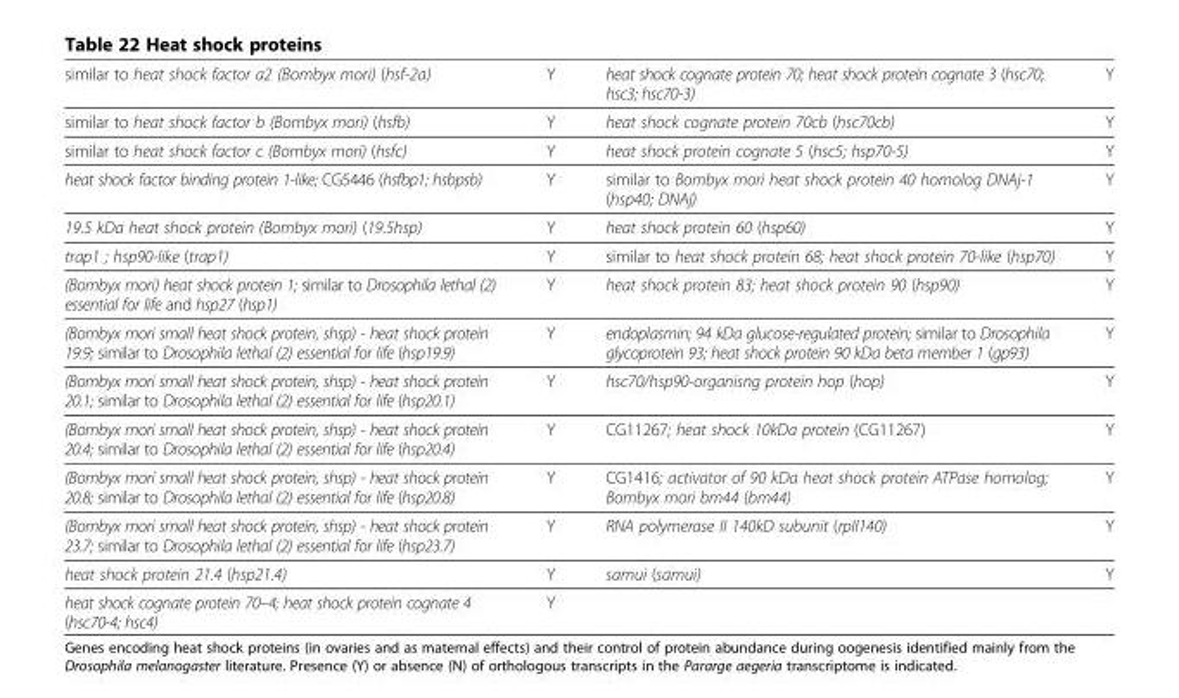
<table><tbody><tr><td>similar to heat shock factor a2 (Bombyx mori) (hsf-2a)</td><td>Y</td><td>heat shock cognate protein 70; heat shock protein cognate 3 (hsc70; hsc3; hsc70-3)</td><td>Y</td></tr><tr><td>similar to heat shock factor b (Bombyx mori) (hsfb)</td><td>Y</td><td>heat shock cognate protein 70cb (hsc70cb)</td><td>Y</td></tr><tr><td>similar to heat shock factor c (Bombyx mori) (hsfc)</td><td>Y</td><td>heat shock protein cognate 5 (hsc5; hsp70-5)</td><td>Y</td></tr><tr><td>heat shock factor binding protein 1-like; CG5446 (hsfbp1; hsbpsb)</td><td>Y</td><td>similar to Bombyx mori heat shock protein 40 homolog DNAj-1 (hsp40; DNAj)</td><td>Y</td></tr><tr><td>19.5 kDa heat shock protein (Bombyx mori) (19.5hsp)</td><td>Y</td><td>heat shock protein 60 (hsp60)</td><td>Y</td></tr><tr><td>trap1 ; hsp90-like (trap1)</td><td>Y</td><td>similar to heat shock protein 68; heat shock protein 70-like (hsp70)</td><td>Y</td></tr><tr><td>(Bombyx mori) heat shock protein 1; similar to Drosophila lethal (2) essential for life and hsp27 (hsp1)</td><td>Y</td><td>heat shock protein 83; heat shock protein 90 (hsp90)</td><td>Y</td></tr><tr><td>(Bombyx mori small heat shock protein, shsp) - heat shock protein 19.9; similar to Drosophila lethal (2) essential for life (hsp19.9)</td><td>Y</td><td>endoplasmin; 94 kDa glucose-regulated protein; similar to Drosophila glycoprotein 93; heat shock protein 90 kDa beta member 1 (gp93)</td><td>Y</td></tr><tr><td>(Bombyx mori small heat shock protein, shsp) - heat shock protein 20.1; similar to Drosophila lethal (2) essential for life (hsp20.1)</td><td>Y</td><td>hsc70/hsp90-organisng protein hop (hop)</td><td>Y</td></tr><tr><td>(Bombyx mori small heat shock protein, shsp) - heat shock protein 20.4; similar to Drosophila lethal (2) essential for life (hsp20.4)</td><td>Y</td><td>CG11267; heat shock 10kDa protein (CG11267)</td><td>Y</td></tr><tr><td>(Bombyx mori small heat shock protein, shsp) - heat shock protein 20.8; similar to Drosophila lethal (2) essential for life (hsp20.8)</td><td>Y</td><td>CG1416; activator of 90 kDa heat shock protein ATPase homolog; Bombyx mori bm44 (bm44)</td><td>Y</td></tr><tr><td>(Bombyx mori small heat shock protein, shsp) - heat shock protein 23.7; similar to Drosophila lethal (2) essential for life (hsp23.7)</td><td>Y</td><td>RNA polymerase II 140kD subunit (rpII140)</td><td>Y</td></tr><tr><td>heat shock protein 21.4 (hsp21.4)</td><td>Y</td><td>samui (samui)</td><td>Y</td></tr><tr><td>heat shock cognate protein 70–4; heat shock protein cognate 4 (hsc70-4; hsc4)</td><td>Y</td><td></td><td></td></tr></tbody></table>